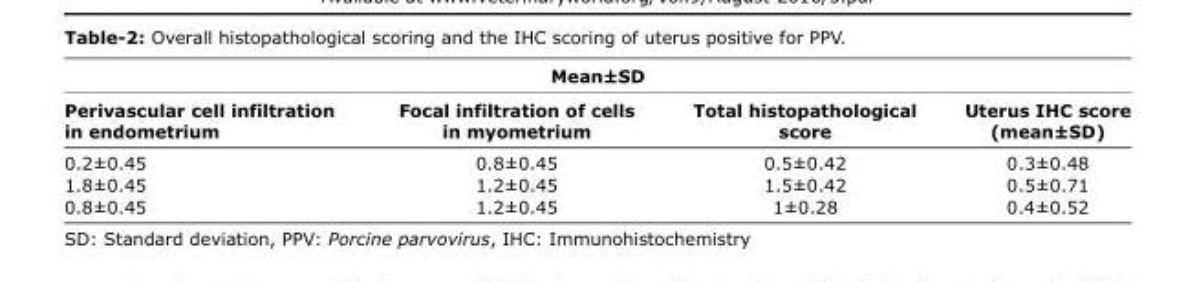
<table><thead><tr><td colspan="4">Mean±SD</td></tr><tr><td>Perivascular cell infiltration in endometrium</td><td>Focal infiltration of cells in myometrium</td><td>Total histopathological score</td><td>Uterus IHC score (mean±SD)</td></tr></thead><tbody><tr><td>0.2±0.45</td><td>0.8±0.45</td><td>0.5±0.42</td><td>0.3±0.48</td></tr><tr><td>1.8±0.45</td><td>1.2±0.45</td><td>1.5±0.42</td><td>0.5±0.71</td></tr><tr><td>0.8±0.45</td><td>1.2±0.45</td><td>1±0.28</td><td>0.4±0.52</td></tr></tbody></table>